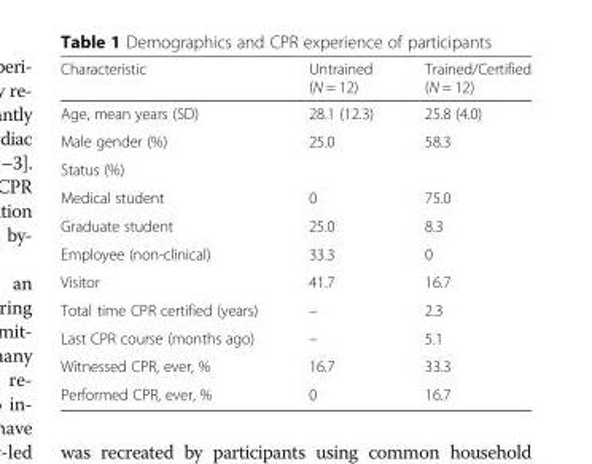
<table><thead><tr><td>Characteristic</td><td>Untrained (N = 12)</td><td>Trained/Certified (N = 12)</td></tr></thead><tbody><tr><td>Age, mean years (SD)</td><td>28.1 (12.3)</td><td>25.8 (4.0)</td></tr><tr><td>Male gender (%)</td><td>25.0</td><td>58.3</td></tr><tr><td colspan="3">Status (%)</td></tr><tr><td>Medical student</td><td>0</td><td>75.0</td></tr><tr><td>Graduate student</td><td>25.0</td><td>8.3</td></tr><tr><td>Employee (non-clinical)</td><td>33.3</td><td>0</td></tr><tr><td>Visitor</td><td>41.7</td><td>16.7</td></tr><tr><td>Total time CPR certified (years)</td><td>–</td><td>2.3</td></tr><tr><td>Last CPR course (months ago)</td><td>–</td><td>5.1</td></tr><tr><td>Witnessed CPR, ever, %</td><td>16.7</td><td>33.3</td></tr><tr><td>Performed CPR, ever, %</td><td>0</td><td>16.7</td></tr></tbody></table>